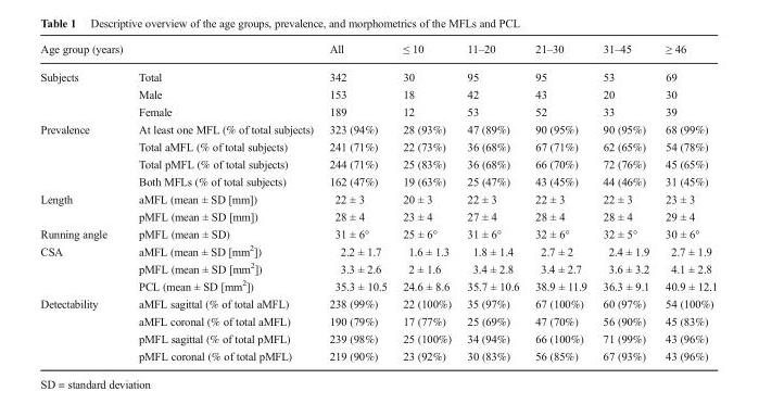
<table><thead><tr><td>Age group (years)</td><td></td><td>All</td><td>≤ 10</td><td>11–20</td><td>21–30</td><td>31–45</td><td>≥ 46</td></tr></thead><tbody><tr><td rowspan="3">Subjects</td><td>Total</td><td>342</td><td>30</td><td>95</td><td>95</td><td>53</td><td>69</td></tr><tr><td>Male</td><td>153</td><td>18</td><td>42</td><td>43</td><td>20</td><td>30</td></tr><tr><td>Female</td><td>189</td><td>12</td><td>53</td><td>52</td><td>33</td><td>39</td></tr><tr><td rowspan="4">Prevalence</td><td>At least one MFL (% of total subjects)</td><td>323 (94%)</td><td>28 (93%)</td><td>47 (89%)</td><td>90 (95%)</td><td>90 (95%)</td><td>68 (99%)</td></tr><tr><td>Total aMFL (% of total subjects)</td><td>241 (71%)</td><td>22 (73%)</td><td>36 (68%)</td><td>67 (71%)</td><td>62 (65%)</td><td>54 (78%)</td></tr><tr><td>Total pMFL (% of total subjects)</td><td>244 (71%)</td><td>25 (83%)</td><td>36 (68%)</td><td>66 (70%)</td><td>72 (76%)</td><td>45 (65%)</td></tr><tr><td>Both MFLs (% of total subjects)</td><td>162 (47%)</td><td>19 (63%)</td><td>25 (47%)</td><td>43 (45%)</td><td>44 (46%)</td><td>31 (45%)</td></tr><tr><td rowspan="2">Length</td><td>aMFL (mean ± SD [mm])</td><td>22 ± 3</td><td>20 ± 3</td><td>22 ± 3</td><td>22 ± 3</td><td>22 ± 3</td><td>23 ± 3</td></tr><tr><td>pMFL (mean ± SD [mm])</td><td>28 ± 4</td><td>23 ± 4</td><td>27 ± 4</td><td>28 ± 4</td><td>28 ± 4</td><td>29 ± 4</td></tr><tr><td>Running angle</td><td>pMFL (mean ± SD)</td><td>31 ± 6°</td><td>25 ± 6°</td><td>31 ± 6°</td><td>32 ± 6°</td><td>32 ± 5°</td><td>30 ± 6°</td></tr><tr><td rowspan="3">CSA</td><td>aMFL (mean ± SD [mm<sup>2</sup>])</td><td>2.2 ± 1.7</td><td>1.6 ± 1.3</td><td>1.8 ± 1.4</td><td>2.7 ± 2</td><td>2.4 ± 1.9</td><td>2.7 ± 1.9</td></tr><tr><td>pMFL (mean ± SD [mm<sup>2</sup>])</td><td>3.3 ± 2.6</td><td>2 ± 1.6</td><td>3.4 ± 2.8</td><td>3.4 ± 2.7</td><td>3.6 ± 3.2</td><td>4.1 ± 2.8</td></tr><tr><td>PCL (mean ± SD [mm<sup>2</sup>])</td><td>35.3 ± 10.5</td><td>24.6 ± 8.6</td><td>35.7 ± 10.6</td><td>38.9 ± 11.9</td><td>36.3 ± 9.1</td><td>40.9 ± 12.1</td></tr><tr><td rowspan="4">Detectability</td><td>aMFL sagittal (% of total aMFL)</td><td>238 (99%)</td><td>22 (100%)</td><td>35 (97%)</td><td>67 (100%)</td><td>60 (97%)</td><td>54 (100%)</td></tr><tr><td>aMFL coronal (% of total aMFL)</td><td>190 (79%)</td><td>17 (77%)</td><td>25 (69%)</td><td>47 (70%)</td><td>56 (90%)</td><td>45 (83%)</td></tr><tr><td>pMFL sagittal (% of total pMFL)</td><td>239 (98%)</td><td>25 (100%)</td><td>34 (94%)</td><td>66 (100%)</td><td>71 (99%)</td><td>43 (96%)</td></tr><tr><td>pMFL coronal (% of total pMFL)</td><td>219 (90%)</td><td>23 (92%)</td><td>30 (83%)</td><td>56 (85%)</td><td>67 (93%)</td><td>43 (96%)</td></tr></tbody></table>